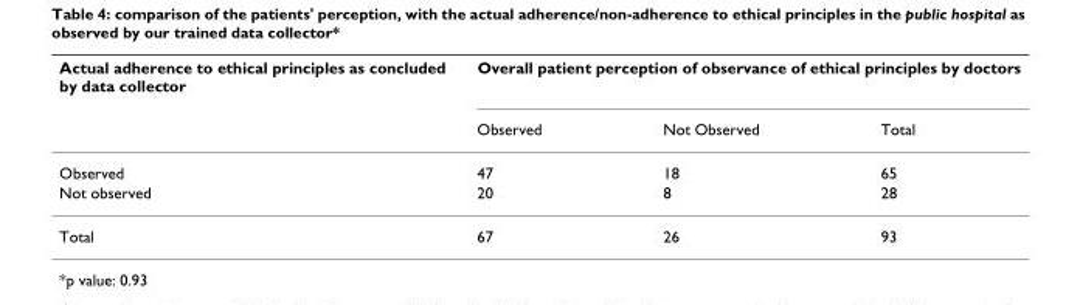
<table><thead><tr><td rowspan="2">Actual adherence to ethical principles as concluded by data collector</td><td colspan="3">Overall patient perception of observance of ethical principles by doctors</td></tr><tr><td>Observed</td><td>Not Observed</td><td>Total</td></tr></thead><tbody><tr><td>Observed</td><td>47</td><td>18</td><td>65</td></tr><tr><td>Not observed</td><td>20</td><td>8</td><td>28</td></tr><tr><td>Total</td><td>67</td><td>26</td><td>93</td></tr></tbody></table>